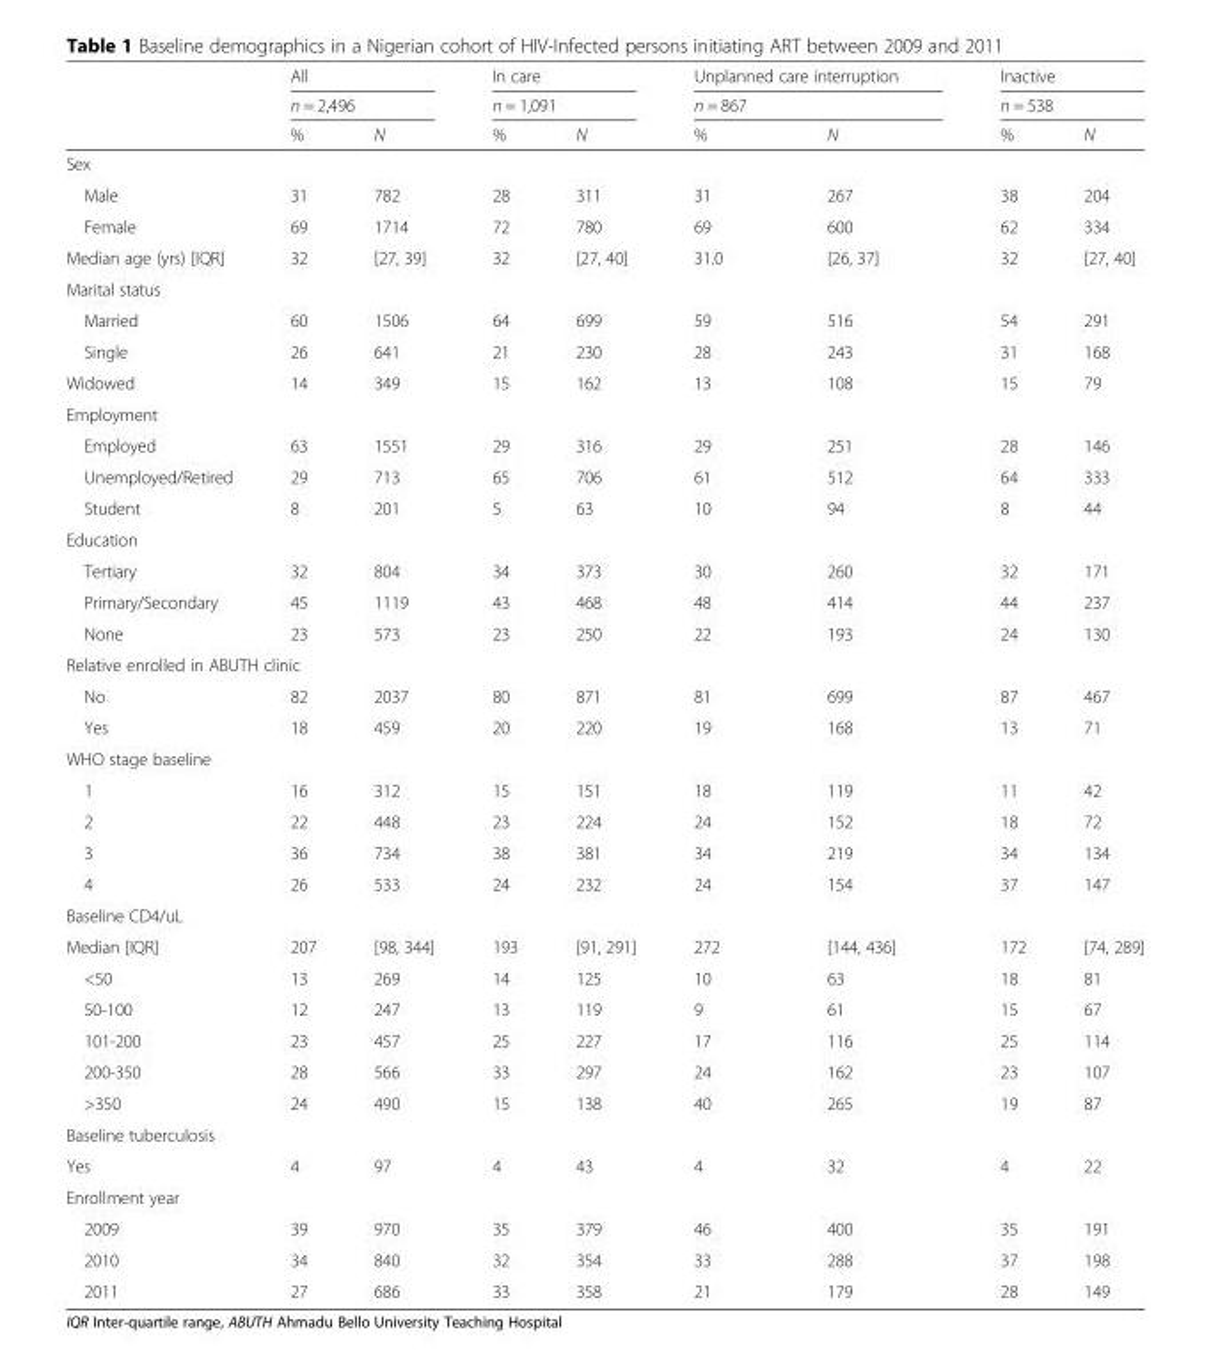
<table><thead><tr><td rowspan="3"></td><td rowspan="2" colspan="2">All n = 2,496</td><td rowspan="2" colspan="2">In care n = 1,091</td><td rowspan="2" colspan="2">Unplanned care interruption n = 867</td><td rowspan="2" colspan="2">Inactive n = 538</td></tr><tr></tr><tr><td>%</td><td>N</td><td>%</td><td>N</td><td>%</td><td>N</td><td>%</td><td>N</td></tr></thead><tbody><tr><td colspan="9">Sex</td></tr><tr><td>Male</td><td>31</td><td>782</td><td>28</td><td>311</td><td>31</td><td>267</td><td>38</td><td>204</td></tr><tr><td>Female</td><td>69</td><td>1714</td><td>72</td><td>780</td><td>69</td><td>600</td><td>62</td><td>334</td></tr><tr><td>Median age (yrs) [IQR]</td><td>32</td><td>[27, 39]</td><td>32</td><td>[27, 40]</td><td>31.0</td><td>[26, 37]</td><td>32</td><td>[27, 40]</td></tr><tr><td colspan="9">Marital status</td></tr><tr><td>Married</td><td>60</td><td>1506</td><td>64</td><td>699</td><td>59</td><td>516</td><td>54</td><td>291</td></tr><tr><td>Single</td><td>26</td><td>641</td><td>21</td><td>230</td><td>28</td><td>243</td><td>31</td><td>168</td></tr><tr><td>Widowed</td><td>14</td><td>349</td><td>15</td><td>162</td><td>13</td><td>108</td><td>15</td><td>79</td></tr><tr><td colspan="9">Employment</td></tr><tr><td>Employed</td><td>63</td><td>1551</td><td>29</td><td>316</td><td>29</td><td>251</td><td>28</td><td>146</td></tr><tr><td>Unemployed/Retired</td><td>29</td><td>713</td><td>65</td><td>706</td><td>61</td><td>512</td><td>64</td><td>333</td></tr><tr><td>Student</td><td>8</td><td>201</td><td>5</td><td>63</td><td>10</td><td>94</td><td>8</td><td>44</td></tr><tr><td colspan="9">Education</td></tr><tr><td>Tertiary</td><td>32</td><td>804</td><td>34</td><td>373</td><td>30</td><td>260</td><td>32</td><td>171</td></tr><tr><td>Primary/Secondary</td><td>45</td><td>1119</td><td>43</td><td>468</td><td>48</td><td>414</td><td>44</td><td>237</td></tr><tr><td>None</td><td>23</td><td>573</td><td>23</td><td>250</td><td>22</td><td>193</td><td>24</td><td>130</td></tr><tr><td colspan="9">Relative enrolled in ABUTH clinic</td></tr><tr><td>No</td><td>82</td><td>2037</td><td>80</td><td>871</td><td>81</td><td>699</td><td>87</td><td>467</td></tr><tr><td>Yes</td><td>18</td><td>459</td><td>20</td><td>220</td><td>19</td><td>168</td><td>13</td><td>71</td></tr><tr><td colspan="9">WHO stage baseline</td></tr><tr><td>1</td><td>16</td><td>312</td><td>15</td><td>151</td><td>18</td><td>119</td><td>11</td><td>42</td></tr><tr><td>2</td><td>22</td><td>448</td><td>23</td><td>224</td><td>24</td><td>152</td><td>18</td><td>72</td></tr><tr><td>3</td><td>36</td><td>734</td><td>38</td><td>381</td><td>34</td><td>219</td><td>34</td><td>134</td></tr><tr><td>4</td><td>26</td><td>533</td><td>24</td><td>232</td><td>24</td><td>154</td><td>37</td><td>147</td></tr><tr><td colspan="9">Baseline CD4/uL</td></tr><tr><td>Median [IQR]</td><td>207</td><td>[98, 344]</td><td>193</td><td>[91, 291]</td><td>272</td><td>[144, 436]</td><td>172</td><td>[74, 289]</td></tr><tr><td>&lt;50</td><td>13</td><td>269</td><td>14</td><td>125</td><td>10</td><td>63</td><td>18</td><td>81</td></tr><tr><td>50-100</td><td>12</td><td>247</td><td>13</td><td>119</td><td>9</td><td>61</td><td>15</td><td>67</td></tr><tr><td>101-200</td><td>23</td><td>457</td><td>25</td><td>227</td><td>17</td><td>116</td><td>25</td><td>114</td></tr><tr><td>200-350</td><td>28</td><td>566</td><td>33</td><td>297</td><td>24</td><td>162</td><td>23</td><td>107</td></tr><tr><td>&gt;350</td><td>24</td><td>490</td><td>15</td><td>138</td><td>40</td><td>265</td><td>19</td><td>87</td></tr><tr><td colspan="9">Baseline tuberculosis</td></tr><tr><td>Yes</td><td>4</td><td>97</td><td>4</td><td>43</td><td>4</td><td>32</td><td>4</td><td>22</td></tr><tr><td colspan="9">Enrollment year</td></tr><tr><td>2009</td><td>39</td><td>970</td><td>35</td><td>379</td><td>46</td><td>400</td><td>35</td><td>191</td></tr><tr><td>2010</td><td>34</td><td>840</td><td>32</td><td>354</td><td>33</td><td>288</td><td>37</td><td>198</td></tr><tr><td>2011</td><td>27</td><td>686</td><td>33</td><td>358</td><td>21</td><td>179</td><td>28</td><td>149</td></tr></tbody></table>